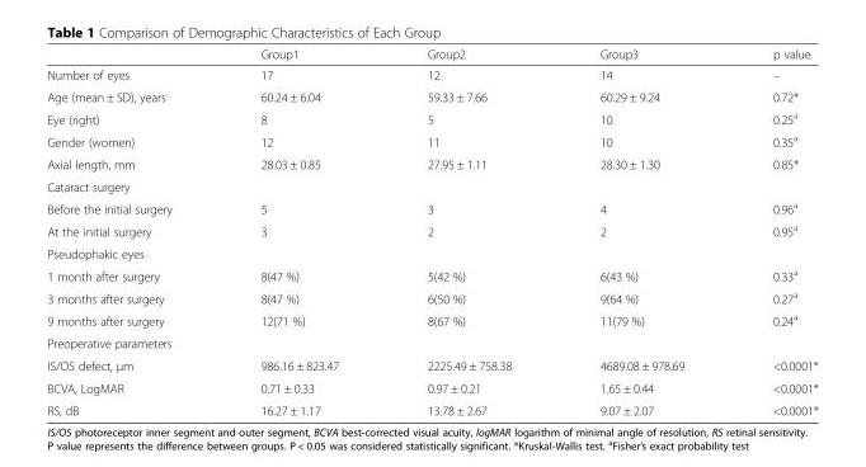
<table><thead><tr><td></td><td>Group1</td><td>Group2</td><td>Group3</td><td>p value</td></tr></thead><tbody><tr><td>Number of eyes</td><td>17</td><td>12</td><td>14</td><td>–</td></tr><tr><td>Age (mean ± SD), years</td><td>60.24 ± 6.04</td><td>59.33 ± 7.66</td><td>60.29 ± 9.24</td><td>0.72*</td></tr><tr><td>Eye (right)</td><td>8</td><td>5</td><td>10</td><td>0.25<sup>a</sup></td></tr><tr><td>Gender (women)</td><td>12</td><td>11</td><td>10</td><td>0.35<sup>a</sup></td></tr><tr><td>Axial length, mm</td><td>28.03 ± 0.85</td><td>27.95 ± 1.11</td><td>28.30 ± 1.30</td><td>0.85*</td></tr><tr><td colspan="5">Cataract surgery</td></tr><tr><td>Before the initial surgery</td><td>5</td><td>3</td><td>4</td><td>0.96<sup>a</sup></td></tr><tr><td>At the initial surgery</td><td>3</td><td>2</td><td>2</td><td>0.95<sup>a</sup></td></tr><tr><td colspan="5">Pseudophakic eyes</td></tr><tr><td>1 month after surgery</td><td>8(47 %)</td><td>5(42 %)</td><td>6(43 %)</td><td>0.33<sup>a</sup></td></tr><tr><td>3 months after surgery</td><td>8(47 %)</td><td>6(50 %)</td><td>9(64 %)</td><td>0.27<sup>a</sup></td></tr><tr><td>9 months after surgery</td><td>12(71 %)</td><td>8(67 %)</td><td>11(79 %)</td><td>0.24<sup>a</sup></td></tr><tr><td colspan="5">Preoperative parameters</td></tr><tr><td>IS/OS defect, μm</td><td>986.16 ± 823.47</td><td>2225.49 ± 758.38</td><td>4689.08 ± 978.69</td><td>&lt;0.0001*</td></tr><tr><td>BCVA, LogMAR</td><td>0.71 ± 0.33</td><td>0.97 ± 0.21</td><td>1.65 ± 0.44</td><td>&lt;0.0001*</td></tr><tr><td>RS, dB</td><td>16.27 ± 1.17</td><td>13.78 ± 2.67</td><td>9.07 ± 2.07</td><td>&lt;0.0001*</td></tr></tbody></table>